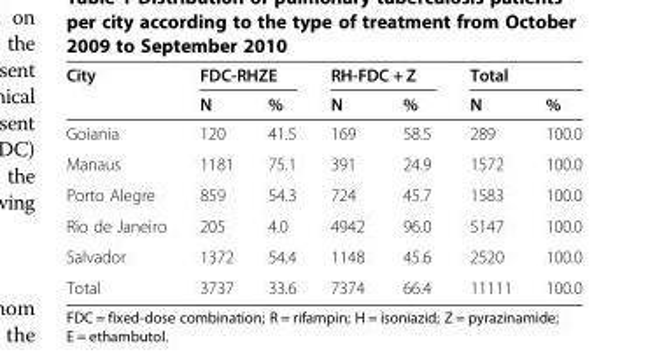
<table><thead><tr><td rowspan="2">City</td><td colspan="2">FDC-RHZE</td><td colspan="2">RH-FDC + Z</td><td colspan="2">Total</td></tr><tr><td>N</td><td>%</td><td>N</td><td>%</td><td>N</td><td>%</td></tr></thead><tbody><tr><td>Goiania</td><td>120</td><td>41.5</td><td>169</td><td>58.5</td><td>289</td><td>100.0</td></tr><tr><td>Manaus</td><td>1181</td><td>75.1</td><td>391</td><td>24.9</td><td>1572</td><td>100.0</td></tr><tr><td>Porto Alegre</td><td>859</td><td>54.3</td><td>724</td><td>45.7</td><td>1583</td><td>100.0</td></tr><tr><td>Rio de Janeiro</td><td>205</td><td>4.0</td><td>4942</td><td>96.0</td><td>5147</td><td>100.0</td></tr><tr><td>Salvador</td><td>1372</td><td>54.4</td><td>1148</td><td>45.6</td><td>2520</td><td>100.0</td></tr><tr><td>Total</td><td>3737</td><td>33.6</td><td>7374</td><td>66.4</td><td>11111</td><td>100.0</td></tr></tbody></table>